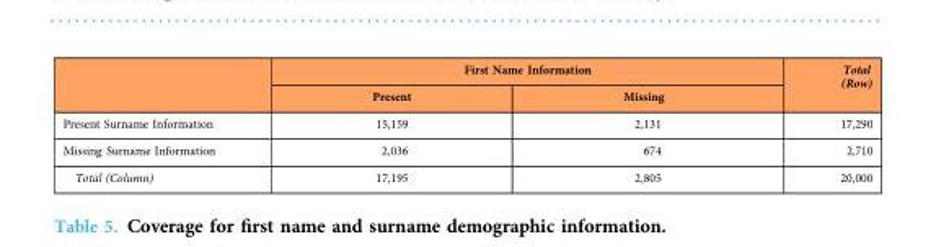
<table><thead><tr><td rowspan="2"></td><td colspan="2">First Name Information</td><td rowspan="2">Total (Row)</td></tr><tr><td>Present</td><td>Missing</td></tr></thead><tbody><tr><td>Present Surname Information</td><td>15,159</td><td>2,131</td><td>17,290</td></tr><tr><td>Missing Surname Information</td><td>2,036</td><td>674</td><td>2,710</td></tr><tr><td>Total (Column)</td><td>17,195</td><td>2,805</td><td>20,000</td></tr></tbody></table>